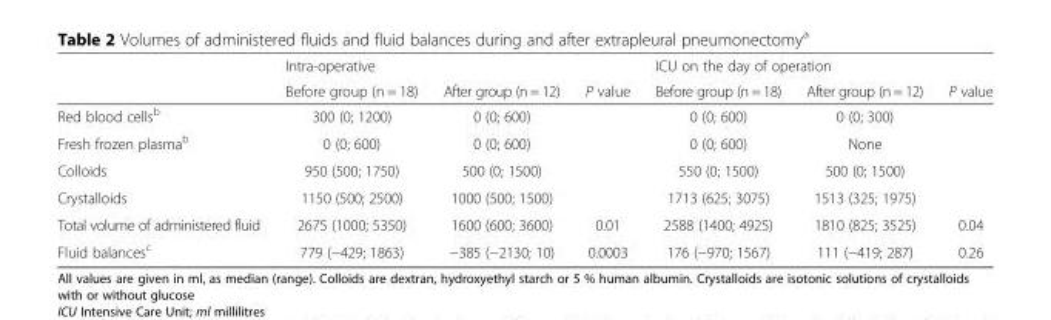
<table><thead><tr><td rowspan="2"></td><td colspan="3">Intra-operative</td><td colspan="3">ICU on the day of operation</td></tr><tr><td>Before group (n = 18)</td><td>After group (n = 12)</td><td>P value</td><td>Before group (n = 18)</td><td>After group (n = 12)</td><td>P value</td></tr></thead><tbody><tr><td>Red blood cells<sup>b</sup></td><td>300 (0; 1200)</td><td>0 (0; 600)</td><td></td><td>0 (0; 600)</td><td>0 (0; 300)</td><td></td></tr><tr><td>Fresh frozen plasma<sup>b</sup></td><td>0 (0; 600)</td><td>0 (0; 600)</td><td></td><td>0 (0; 600)</td><td>None</td><td></td></tr><tr><td>Colloids</td><td>950 (500; 1750)</td><td>500 (0; 1500)</td><td></td><td>550 (0; 1500)</td><td>500 (0; 1500)</td><td></td></tr><tr><td>Crystalloids</td><td>1150 (500; 2500)</td><td>1000 (500; 1500)</td><td></td><td>1713 (625; 3075)</td><td>1513 (325; 1975)</td><td></td></tr><tr><td>Total volume of administered fluid</td><td>2675 (1000; 5350)</td><td>1600 (600; 3600)</td><td>0.01</td><td>2588 (1400; 4925)</td><td>1810 (825; 3525)</td><td>0.04</td></tr><tr><td>Fluid balances<sup>c</sup></td><td>779 (−429; 1863)</td><td>−385 (−2130; 10)</td><td>0.0003</td><td>176 (−970; 1567)</td><td>111 (−419; 287)</td><td>0.26</td></tr></tbody></table>